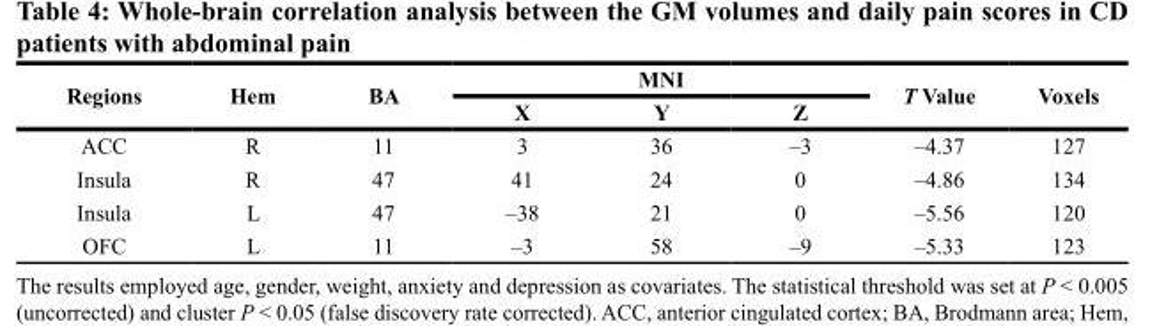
<table><thead><tr><td rowspan="2">Regions</td><td rowspan="2">Hem</td><td rowspan="2">BA</td><td colspan="3">MNI</td><td rowspan="2">T Value</td><td rowspan="2">Voxels</td></tr><tr><td>X</td><td>Y</td><td>Z</td></tr></thead><tbody><tr><td>ACC</td><td>R</td><td>11</td><td>3</td><td>36</td><td>–3</td><td>–4.37</td><td>127</td></tr><tr><td>Insula</td><td>R</td><td>47</td><td>41</td><td>24</td><td>0</td><td>–4.86</td><td>134</td></tr><tr><td>Insula</td><td>L</td><td>47</td><td>–38</td><td>21</td><td>0</td><td>–5.56</td><td>120</td></tr><tr><td>OFC</td><td>L</td><td>11</td><td>–3</td><td>58</td><td>–9</td><td>–5.33</td><td>123</td></tr></tbody></table>